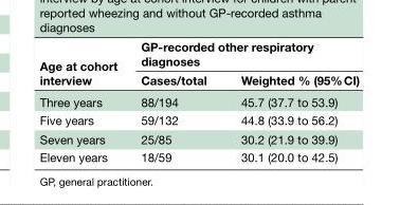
<table><thead><tr><td rowspan="2">Age at cohort interview</td><td colspan="2">GP-recorded other respiratory diagnoses</td></tr><tr><td>Cases/total</td><td>Weighted % (95% CI)</td></tr></thead><tbody><tr><td>Three years</td><td>88/194</td><td>45.7 (37.7 to 53.9)</td></tr><tr><td>Five years</td><td>59/132</td><td>44.8 (33.9 to 56.2)</td></tr><tr><td>Seven years</td><td>25/85</td><td>30.2 (21.9 to 39.9)</td></tr><tr><td>Eleven years</td><td>18/59</td><td>30.1 (20.0 to 42.5)</td></tr></tbody></table>